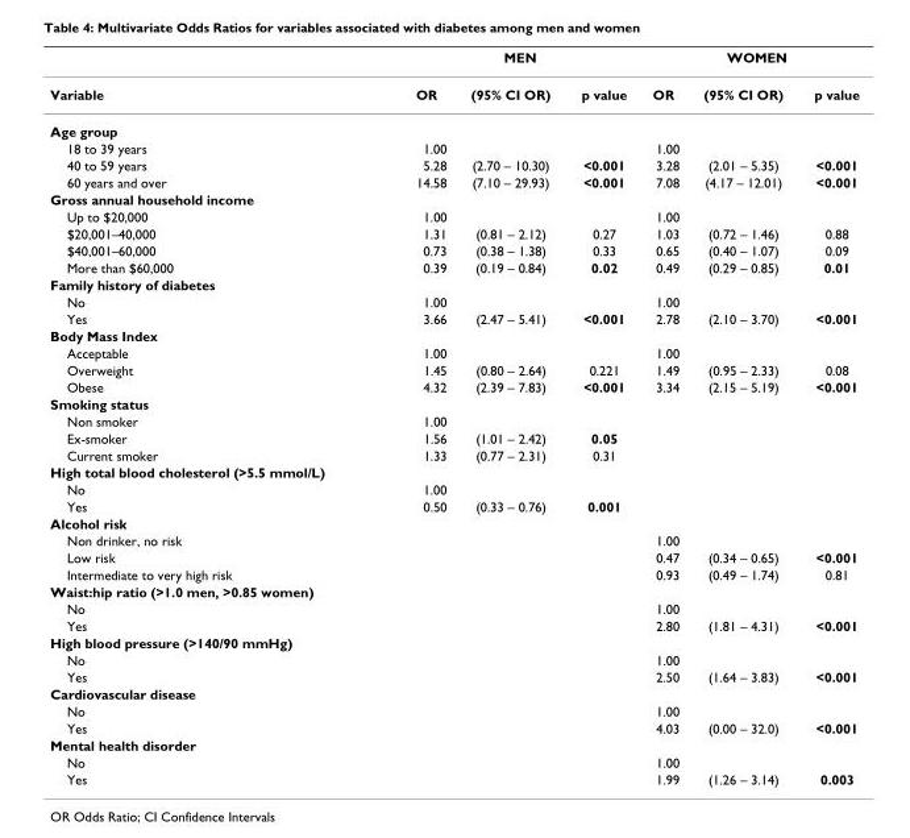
<table><thead><tr><td rowspan="2">Variable</td><td colspan="3">MEN</td><td colspan="3">WOMEN</td></tr><tr><td>OR</td><td>(95% CI OR)</td><td>p value</td><td>OR</td><td>(95% CI OR)</td><td>p value</td></tr></thead><tbody><tr><td colspan="7">Age group</td></tr><tr><td>18 to 39 years</td><td>1.00</td><td></td><td></td><td>1.00</td><td></td><td></td></tr><tr><td>40 to 59 years</td><td>5.28</td><td>(2.70 – 10.30)</td><td>&lt;0.001</td><td>3.28</td><td>(2.01 – 5.35)</td><td>&lt;0.001</td></tr><tr><td>60 years and over</td><td>14.58</td><td>(7.10 – 29.93)</td><td>&lt;0.001</td><td>7.08</td><td>(4.17 – 12.01)</td><td>&lt;0.001</td></tr><tr><td colspan="7">Gross annual household income</td></tr><tr><td>Up to $20,000</td><td>1.00</td><td></td><td></td><td>1.00</td><td></td><td></td></tr><tr><td>$20,001–40,000</td><td>1.31</td><td>(0.81 – 2.12)</td><td>0.27</td><td>1.03</td><td>(0.72 – 1.46)</td><td>0.88</td></tr><tr><td>$40,001–60,000</td><td>0.73</td><td>(0.38 – 1.38)</td><td>0.33</td><td>0.65</td><td>(0.40 – 1.07)</td><td>0.09</td></tr><tr><td>More than $60,000</td><td>0.39</td><td>(0.19 – 0.84)</td><td>0.02</td><td>0.49</td><td>(0.29 – 0.85)</td><td>0.01</td></tr><tr><td colspan="7">Family history of diabetes</td></tr><tr><td>No</td><td>1.00</td><td></td><td></td><td>1.00</td><td></td><td></td></tr><tr><td>Yes</td><td>3.66</td><td>(2.47 – 5.41)</td><td>&lt;0.001</td><td>2.78</td><td>(2.10 – 3.70)</td><td>&lt;0.001</td></tr><tr><td colspan="7">Body Mass Index</td></tr><tr><td>Acceptable</td><td>1.00</td><td></td><td></td><td>1.00</td><td></td><td></td></tr><tr><td>Overweight</td><td>1.45</td><td>(0.80 – 2.64)</td><td>0.221</td><td>1.49</td><td>(0.95 – 2.33)</td><td>0.08</td></tr><tr><td>Obese</td><td>4.32</td><td>(2.39 – 7.83)</td><td>&lt;0.001</td><td>3.34</td><td>(2.15 – 5.19)</td><td>&lt;0.001</td></tr><tr><td colspan="7">Smoking status</td></tr><tr><td>Non smoker</td><td>1.00</td><td></td><td></td><td></td><td></td><td></td></tr><tr><td>Ex-smoker</td><td>1.56</td><td>(1.01 – 2.42)</td><td>0.05</td><td></td><td></td><td></td></tr><tr><td>Current smoker</td><td>1.33</td><td>(0.77 – 2.31)</td><td>0.31</td><td></td><td></td><td></td></tr><tr><td colspan="7">High total blood cholesterol (&gt;5.5 mmol/L)</td></tr><tr><td>No</td><td>1.00</td><td></td><td></td><td></td><td></td><td></td></tr><tr><td>Yes</td><td>0.50</td><td>(0.33 – 0.76)</td><td>0.001</td><td></td><td></td><td></td></tr><tr><td colspan="7">Alcohol risk</td></tr><tr><td>Non drinker, no risk</td><td></td><td></td><td></td><td>1.00</td><td></td><td></td></tr><tr><td>Low risk</td><td></td><td></td><td></td><td>0.47</td><td>(0.34 – 0.65)</td><td>&lt;0.001</td></tr><tr><td>Intermediate to very high risk</td><td></td><td></td><td></td><td>0.93</td><td>(0.49 – 1.74)</td><td>0.81</td></tr><tr><td colspan="7">Waist:hip ratio (&gt;1.0 men, &gt;0.85 women)</td></tr><tr><td>No</td><td></td><td></td><td></td><td>1.00</td><td></td><td></td></tr><tr><td>Yes</td><td></td><td></td><td></td><td>2.80</td><td>(1.81 – 4.31)</td><td>&lt;0.001</td></tr><tr><td colspan="7">High blood pressure (&gt;140/90 mmHg)</td></tr><tr><td>No</td><td></td><td></td><td></td><td>1.00</td><td></td><td></td></tr><tr><td>Yes</td><td></td><td></td><td></td><td>2.50</td><td>(1.64 – 3.83)</td><td>&lt;0.001</td></tr><tr><td colspan="7">Cardiovascular disease</td></tr><tr><td>No</td><td></td><td></td><td></td><td>1.00</td><td></td><td></td></tr><tr><td>Yes</td><td></td><td></td><td></td><td>4.03</td><td>(0.00 – 32.0)</td><td>&lt;0.001</td></tr><tr><td colspan="7">Mental health disorder</td></tr><tr><td>No</td><td></td><td></td><td></td><td>1.00</td><td></td><td></td></tr><tr><td>Yes</td><td></td><td></td><td></td><td>1.99</td><td>(1.26 – 3.14)</td><td>0.003</td></tr></tbody></table>